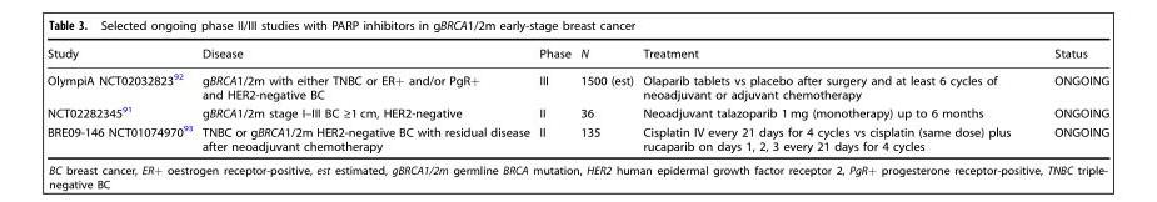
<table><thead><tr><td>Study</td><td>Disease</td><td>Phase</td><td>N</td><td>Treatment</td><td>Status</td></tr></thead><tbody><tr><td>OlympiA NCT02032823<sup>92</sup></td><td>gBRCA1/2m with either TNBC or ER+ and/or PgR+ and HER2-negative BC</td><td>III</td><td>1500 (est)</td><td>Olaparib tablets vs placebo after surgery and at least 6 cycles of neoadjuvant or adjuvant chemotherapy</td><td>ONGOING</td></tr><tr><td>NCT02282345<sup>91</sup></td><td>gBRCA1/2m stage I–III BC ≥1 cm, HER2-negative</td><td>II</td><td>36</td><td>Neoadjuvant talazoparib 1 mg (monotherapy) up to 6 months</td><td>ONGOING</td></tr><tr><td>BRE09-146 NCT01074970<sup>93</sup></td><td>TNBC or gBRCA1/2m HER2-negative BC with residual disease after neoadjuvant chemotherapy</td><td>II</td><td>135</td><td>Cisplatin IV every 21 days for 4 cycles vs cisplatin (same dose) plus rucaparib on days 1, 2, 3 every 21 days for 4 cycles</td><td>ONGOING</td></tr></tbody></table>